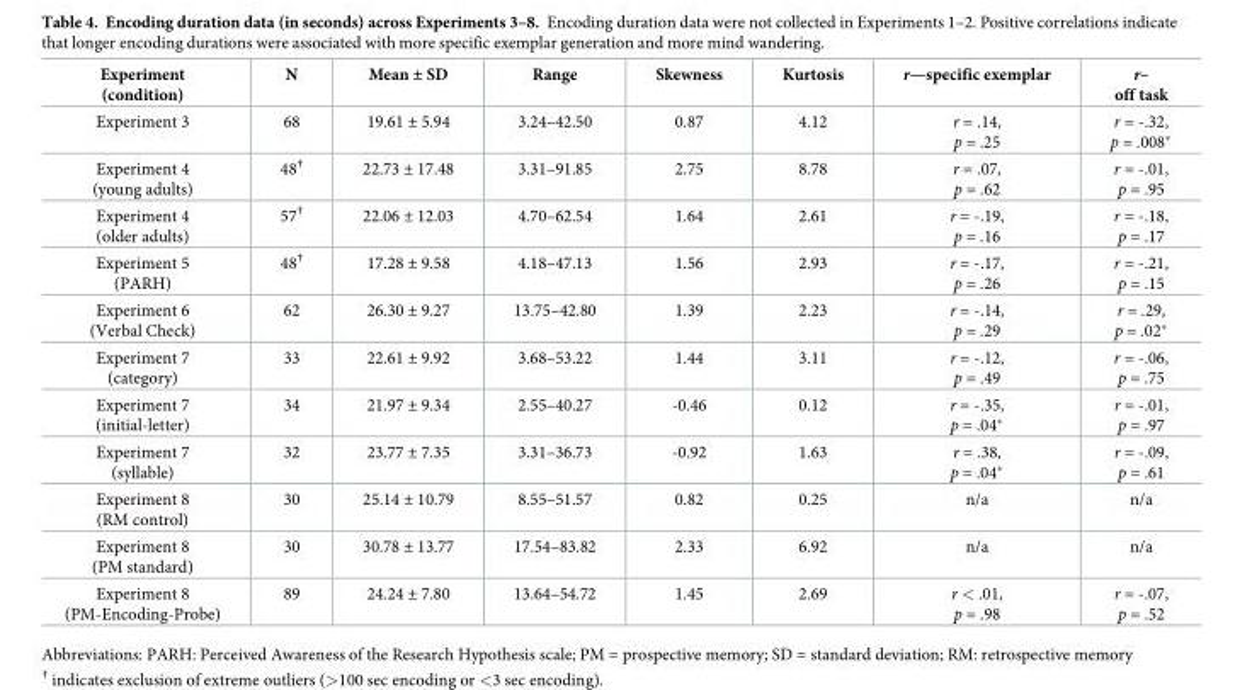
<table><thead><tr><td>Experiment (condition)</td><td>N</td><td>Mean ± SD</td><td>Range</td><td>Skewness</td><td>Kurtosis</td><td>r—specific exemplar</td><td>r– off task</td></tr></thead><tbody><tr><td>Experiment 3</td><td>68</td><td>19.61 ± 5.94</td><td>3.24–42.50</td><td>0.87</td><td>4.12</td><td>r = .14, p = .25</td><td>r = -.32, p = .008*</td></tr><tr><td>Experiment 4 (young adults)</td><td>48<sup>†</sup></td><td>22.73 ± 17.48</td><td>3.31–91.85</td><td>2.75</td><td>8.78</td><td>r = .07, p = .62</td><td>r = -.01, p = .95</td></tr><tr><td>Experiment 4 (older adults)</td><td>57<sup>†</sup></td><td>22.06 ± 12.03</td><td>4.70–62.54</td><td>1.64</td><td>2.61</td><td>r = -.19, p = .16</td><td>r = -.18, p = .17</td></tr><tr><td>Experiment 5 (PARH)</td><td>48<sup>†</sup></td><td>17.28 ± 9.58</td><td>4.18–47.13</td><td>1.56</td><td>2.93</td><td>r = -.17, p = .26</td><td>r = -.21, p = .15</td></tr><tr><td>Experiment 6 (Verbal Check)</td><td>62</td><td>26.30 ± 9.27</td><td>13.75–42.80</td><td>1.39</td><td>2.23</td><td>r = -.14, p = .29</td><td>r = .29, p = .02*</td></tr><tr><td>Experiment 7 (category)</td><td>33</td><td>22.61 ± 9.92</td><td>3.68–53.22</td><td>1.44</td><td>3.11</td><td>r = -.12, p = .49</td><td>r = -.06, p = .75</td></tr><tr><td>Experiment 7 (initial-letter)</td><td>34</td><td>21.97 ± 9.34</td><td>2.55–40.27</td><td>-0.46</td><td>0.12</td><td>r = -.35, p = .04*</td><td>r = -.01, p = .97</td></tr><tr><td>Experiment 7 (syllable)</td><td>32</td><td>23.77 ± 7.35</td><td>3.31–36.73</td><td>-0.92</td><td>1.63</td><td>r = .38, p = .04*</td><td>r = -.09, p = .61</td></tr><tr><td>Experiment 8 (RM control)</td><td>30</td><td>25.14 ± 10.79</td><td>8.55–51.57</td><td>0.82</td><td>0.25</td><td>n/a</td><td>n/a</td></tr><tr><td>Experiment 8 (PM standard)</td><td>30</td><td>30.78 ± 13.77</td><td>17.54–83.82</td><td>2.33</td><td>6.92</td><td>n/a</td><td>n/a</td></tr><tr><td>Experiment 8 (PM-Encoding-Probe)</td><td>89</td><td>24.24 ± 7.80</td><td>13.64–54.72</td><td>1.45</td><td>2.69</td><td>r &lt; .01, p = .98</td><td>r = -.07, p = .52</td></tr></tbody></table>